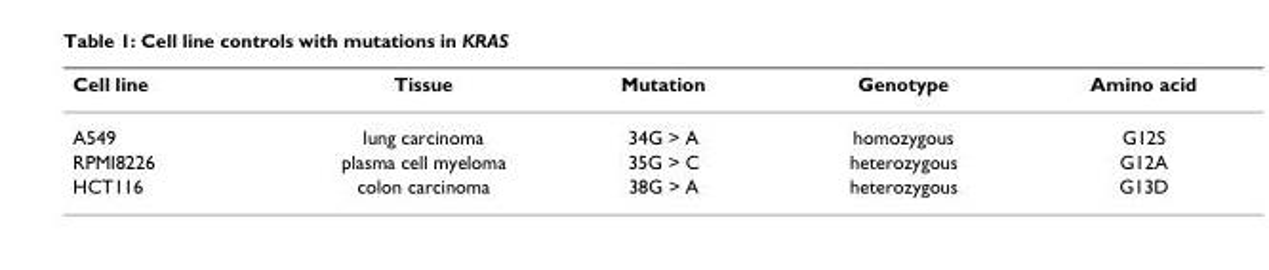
<table><thead><tr><td>Cell line</td><td>Tissue</td><td>Mutation</td><td>Genotype</td><td>Amino acid</td></tr></thead><tbody><tr><td>A549</td><td>lung carcinoma</td><td>34G &gt; A</td><td>homozygous</td><td>G12S</td></tr><tr><td>RPMI8226</td><td>plasma cell myeloma</td><td>35G &gt; C</td><td>heterozygous</td><td>G12A</td></tr><tr><td>HCT116</td><td>colon carcinoma</td><td>38G &gt; A</td><td>heterozygous</td><td>G13D</td></tr></tbody></table>